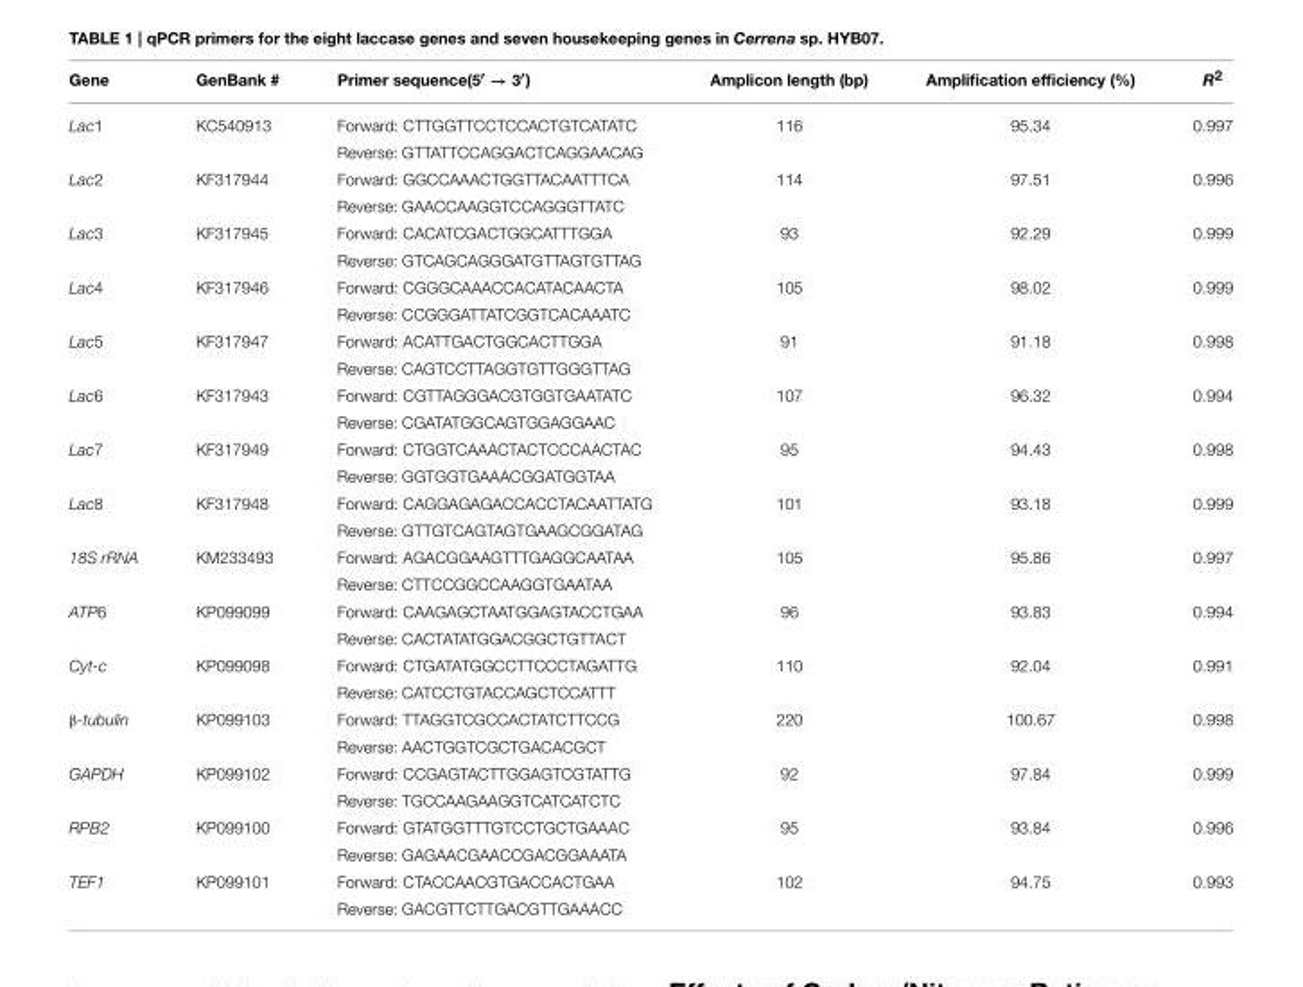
<table><thead><tr><td>Gene</td><td>GenBank #</td><td>Primer sequence(5′ → 3′)</td><td>Amplicon length (bp)</td><td>Amplification efficiency (%)</td><td>R<sup>2</sup></td></tr></thead><tbody><tr><td rowspan="2">Lac1</td><td>KC540913</td><td>Forward: CTTGGTTCCTCCACTGTCATATC</td><td>116</td><td>95.34</td><td>0.997</td></tr><tr><td></td><td>Reverse: GTTATTCCAGGACTCAGGAACAG</td><td></td><td></td><td></td></tr><tr><td rowspan="2">Lac2</td><td>KF317944</td><td>Forward: GGCCAAACTGGTTACAATTTCA</td><td>114</td><td>97.51</td><td>0.996</td></tr><tr><td></td><td>Reverse: GAACCAAGGTCCAGGGTTATC</td><td></td><td></td><td></td></tr><tr><td rowspan="2">Lac3</td><td>KF317945</td><td>Forward: CACATCGACTGGCATTTGGA</td><td>93</td><td>92.29</td><td>0.999</td></tr><tr><td></td><td>Reverse: GTCAGCAGGGATGTTAGTGTTAG</td><td></td><td></td><td></td></tr><tr><td rowspan="2">Lac4</td><td>KF317946</td><td>Forward: CGGGCAAACCACATACAACTA</td><td>105</td><td>98.02</td><td>0.999</td></tr><tr><td></td><td>Reverse: CCGGGATTATCGGTCACAAATC</td><td></td><td></td><td></td></tr><tr><td rowspan="2">Lac5</td><td>KF317947</td><td>Forward: ACATTGACTGGCACTTGGA</td><td>91</td><td>91.18</td><td>0.998</td></tr><tr><td></td><td>Reverse: CAGTCCTTAGGTGTTGGGTTAG</td><td></td><td></td><td></td></tr><tr><td rowspan="2">Lac6</td><td>KF317943</td><td>Forward: CGTTAGGGACGTGGTGAATATC</td><td>107</td><td>96.32</td><td>0.994</td></tr><tr><td></td><td>Reverse: CGATATGGCAGTGGAGGAAC</td><td></td><td></td><td></td></tr><tr><td rowspan="2">Lac7</td><td>KF317949</td><td>Forward: CTGGTCAAACTACTCCCAACTAC</td><td>95</td><td>94.43</td><td>0.998</td></tr><tr><td></td><td>Reverse: GGTGGTGAAACGGATGGTAA</td><td></td><td></td><td></td></tr><tr><td rowspan="2">Lac8</td><td>KF317948</td><td>Forward: CAGGAGAGACCACCTACAATTATG</td><td>101</td><td>93.18</td><td>0.999</td></tr><tr><td></td><td>Reverse: GTTGTCAGTAGTGAAGCGGATAG</td><td></td><td></td><td></td></tr><tr><td rowspan="2">18S rRNA</td><td>KM233493</td><td>Forward: AGACGGAAGTTTGAGGCAATAA</td><td>105</td><td>95.86</td><td>0.997</td></tr><tr><td></td><td>Reverse: CTTCCGGCCAAGGTGAATAA</td><td></td><td></td><td></td></tr><tr><td rowspan="2">ATP6</td><td>KP099099</td><td>Forward: CAAGAGCTAATGGAGTACCTGAA</td><td>96</td><td>93.83</td><td>0.994</td></tr><tr><td></td><td>Reverse: CACTATATGGACGGCTGTTACT</td><td></td><td></td><td></td></tr><tr><td rowspan="2">Cyt-c</td><td>KP099098</td><td>Forward: CTGATATGGCCTTCCCTAGATTG</td><td>110</td><td>92.04</td><td>0.991</td></tr><tr><td></td><td>Reverse: CATCCTGTACCAGCTCCATTT</td><td></td><td></td><td></td></tr><tr><td rowspan="2">β-tubulin</td><td>KP099103</td><td>Forward: TTAGGTCGCCACTATCTTCCG</td><td>220</td><td>100.67</td><td>0.998</td></tr><tr><td></td><td>Reverse: AACTGGTCGCTGACACGCT</td><td></td><td></td><td></td></tr><tr><td rowspan="2">GAPDH</td><td>KP099102</td><td>Forward: CCGAGTACTTGGAGTCGTATTG</td><td>92</td><td>97.84</td><td>0.999</td></tr><tr><td></td><td>Reverse: TGCCAAGAAGGTCATCATCTC</td><td></td><td></td><td></td></tr><tr><td rowspan="2">RPB2</td><td>KP099100</td><td>Forward: GTATGGTTTGTCCTGCTGAAAC</td><td>95</td><td>93.84</td><td>0.996</td></tr><tr><td></td><td>Reverse: GAGAACGAACCGACGGAAATA</td><td></td><td></td><td></td></tr><tr><td rowspan="2">TEF1</td><td>KP099101</td><td>Forward: CTACCAACGTGACCACTGAA</td><td>102</td><td>94.75</td><td>0.993</td></tr><tr><td></td><td>Reverse: GACGTTCTTGACGTTGAAACC</td><td></td><td></td><td></td></tr></tbody></table>